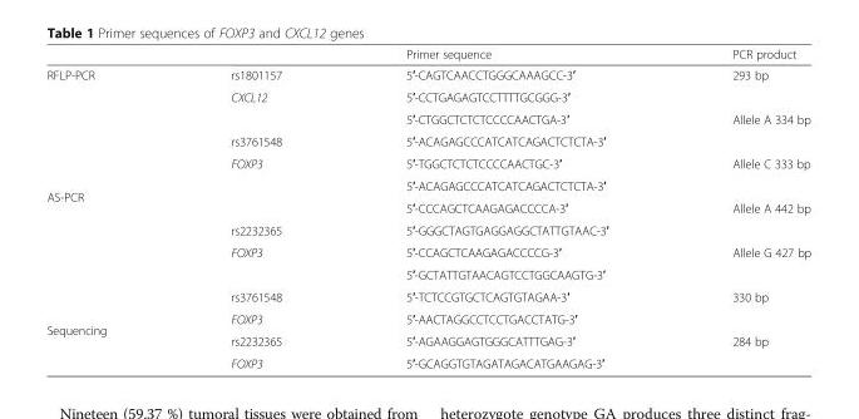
<table><thead><tr><td></td><td></td><td>Primer sequence</td><td>PCR product</td></tr></thead><tbody><tr><td rowspan="2">RFLP-PCR</td><td>rs1801157</td><td>5′-CAGTCAACCTGGGCAAAGCC-3′</td><td rowspan="2">293 bp</td></tr><tr><td>CXCL12</td><td>5′-CCTGAGAGTCCTTTTGCGGG-3′</td></tr><tr><td rowspan="8">AS-PCR</td><td></td><td>5′-CTGGCTCTCTCCCCAACTGA-3′</td><td rowspan="2">Allele A 334 bp</td></tr><tr><td>rs3761548</td><td>5′-ACAGAGCCCATCATCAGACTCTCTA-3′</td></tr><tr><td>FOXP3</td><td>5′-TGGCTCTCTCCCCAACTGC-3′</td><td rowspan="2">Allele C 333 bp</td></tr><tr><td></td><td>5′-ACAGAGCCCATCATCAGACTCTCTA-3′</td></tr><tr><td></td><td>5′-CCCAGCTCAAGAGACCCCA-3′</td><td rowspan="2">Allele A 442 bp</td></tr><tr><td>rs2232365</td><td>5′-GGGCTAGTGAGGAGGCTATTGTAAC-3′</td></tr><tr><td>FOXP3</td><td>5′-CCAGCTCAAGAGACCCCG-3′</td><td rowspan="2">Allele G 427 bp</td></tr><tr><td></td><td>5′-GCTATTGTAACAGTCCTGGCAAGTG-3′</td></tr><tr><td rowspan="4">Sequencing</td><td>rs3761548</td><td>5′-TCTCCGTGCTCAGTGTAGAA-3′</td><td rowspan="2">330 bp</td></tr><tr><td>FOXP3</td><td>5′-AACTAGGCCTCCTGACCTATG-3′</td></tr><tr><td>rs2232365</td><td>5′-AGAAGGAGTGGGCATTTGAG-3′</td><td rowspan="2">284 bp</td></tr><tr><td>FOXP3</td><td>5′-GCAGGTGTAGATAGACATGAAGAG-3′</td></tr></tbody></table>